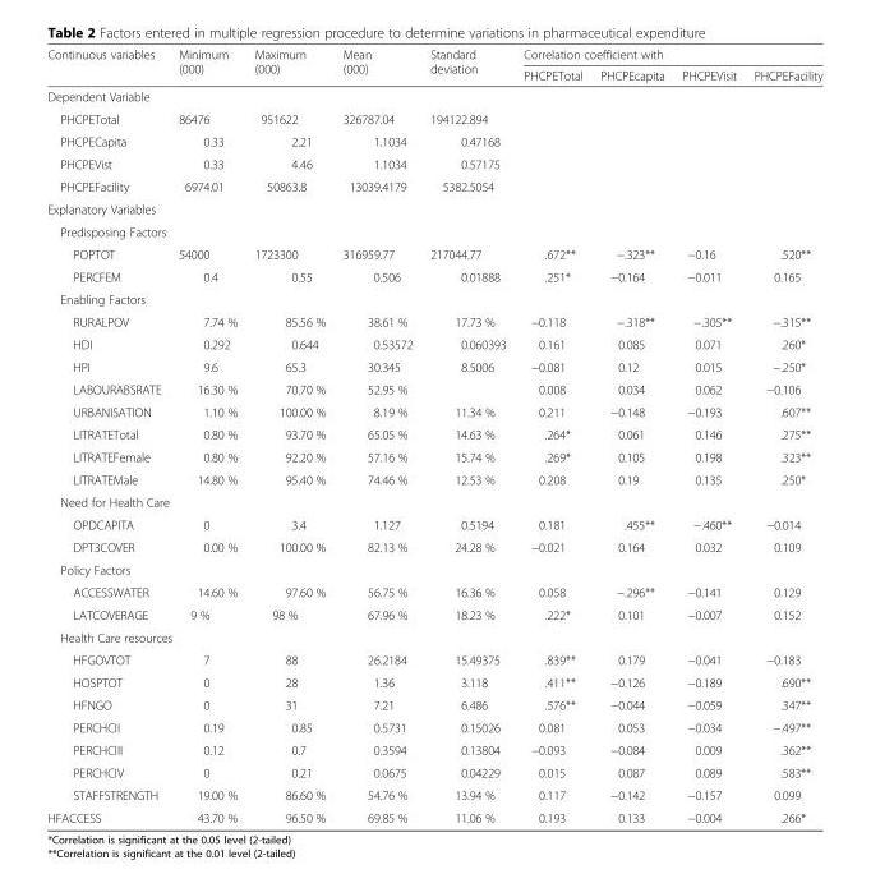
<table><thead><tr><td rowspan="2">Continuous variables</td><td rowspan="2">Minimum (000)</td><td rowspan="2">Maximum (000)</td><td rowspan="2">Mean (000)</td><td rowspan="2">Standard deviation</td><td colspan="4">Correlation coefficient with</td></tr><tr><td>PHCPETotal</td><td>PHCPEcapita</td><td>PHCPEVisit</td><td>PHCPEFacility</td></tr></thead><tbody><tr><td colspan="9">Dependent Variable</td></tr><tr><td>PHCPETotal</td><td>86476</td><td>951622</td><td>326787.04</td><td>194122.894</td><td></td><td></td><td></td><td></td></tr><tr><td>PHCPECapita</td><td>0.33</td><td>2.21</td><td>1.1034</td><td>0.47168</td><td></td><td></td><td></td><td></td></tr><tr><td>PHCPEVist</td><td>0.33</td><td>4.46</td><td>1.1034</td><td>0.57175</td><td></td><td></td><td></td><td></td></tr><tr><td>PHCPEFacility</td><td>6974.01</td><td>50863.8</td><td>13039.4179</td><td>5382.5054</td><td></td><td></td><td></td><td></td></tr><tr><td colspan="9">Explanatory Variables</td></tr><tr><td colspan="9">Predisposing Factors</td></tr><tr><td>POPTOT</td><td>54000</td><td>1723300</td><td>316959.77</td><td>217044.77</td><td>.672**</td><td>−.323**</td><td>−0.16</td><td>.520**</td></tr><tr><td>PERCFEM</td><td>0.4</td><td>0.55</td><td>0.506</td><td>0.01888</td><td>.251*</td><td>−0.164</td><td>−0.011</td><td>0.165</td></tr><tr><td colspan="9">Enabling Factors</td></tr><tr><td>RURALPOV</td><td>7.74 %</td><td>85.56 %</td><td>38.61 %</td><td>17.73 %</td><td>−0.118</td><td>−.318**</td><td>−.305**</td><td>−.315**</td></tr><tr><td>HDI</td><td>0.292</td><td>0.644</td><td>0.53572</td><td>0.060393</td><td>0.161</td><td>0.085</td><td>0.071</td><td>.260*</td></tr><tr><td>HPI</td><td>9.6</td><td>65.3</td><td>30.345</td><td>8.5006</td><td>−0.081</td><td>0.12</td><td>0.015</td><td>−.250*</td></tr><tr><td>LABOURABSRATE</td><td>16.30 %</td><td>70.70 %</td><td>52.95 %</td><td></td><td>0.008</td><td>0.034</td><td>0.062</td><td>−0.106</td></tr><tr><td>URBANISATION</td><td>1.10 %</td><td>100.00 %</td><td>8.19 %</td><td>11.34 %</td><td>0.211</td><td>−0.148</td><td>−0.193</td><td>.607**</td></tr><tr><td>LITRATETotal</td><td>0.80 %</td><td>93.70 %</td><td>65.05 %</td><td>14.63 %</td><td>.264*</td><td>0.061</td><td>0.146</td><td>.275**</td></tr><tr><td>LITRATEFemale</td><td>0.80 %</td><td>92.20 %</td><td>57.16 %</td><td>15.74 %</td><td>.269*</td><td>0.105</td><td>0.198</td><td>.323**</td></tr><tr><td>LITRATEMale</td><td>14.80 %</td><td>95.40 %</td><td>74.46 %</td><td>12.53 %</td><td>0.208</td><td>0.19</td><td>0.135</td><td>.250*</td></tr><tr><td colspan="9">Need for Health Care</td></tr><tr><td>OPDCAPITA</td><td>0</td><td>3.4</td><td>1.127</td><td>0.5194</td><td>0.181</td><td>.455**</td><td>−.460**</td><td>−0.014</td></tr><tr><td>DPT3COVER</td><td>0.00 %</td><td>100.00 %</td><td>82.13 %</td><td>24.28 %</td><td>−0.021</td><td>0.164</td><td>0.032</td><td>0.109</td></tr><tr><td colspan="9">Policy Factors</td></tr><tr><td>ACCESSWATER</td><td>14.60 %</td><td>97.60 %</td><td>56.75 %</td><td>16.36 %</td><td>0.058</td><td>−.296**</td><td>−0.141</td><td>0.129</td></tr><tr><td>LATCOVERAGE</td><td>9 %</td><td>98 %</td><td>67.96 %</td><td>18.23 %</td><td>.222*</td><td>0.101</td><td>−0.007</td><td>0.152</td></tr><tr><td colspan="9">Health Care resources</td></tr><tr><td>HFGOVTOT</td><td>7</td><td>88</td><td>26.2184</td><td>15.49375</td><td>.839**</td><td>0.179</td><td>−0.041</td><td>−0.183</td></tr><tr><td>HOSPTOT</td><td>0</td><td>28</td><td>1.36</td><td>3.118</td><td>.411**</td><td>−0.126</td><td>−0.189</td><td>.690**</td></tr><tr><td>HFNGO</td><td>0</td><td>31</td><td>7.21</td><td>6.486</td><td>.576**</td><td>−0.044</td><td>−0.059</td><td>.347**</td></tr><tr><td>PERCHCII</td><td>0.19</td><td>0.85</td><td>0.5731</td><td>0.15026</td><td>0.081</td><td>0.053</td><td>−0.034</td><td>−.497**</td></tr><tr><td>PERCHCIII</td><td>0.12</td><td>0.7</td><td>0.3594</td><td>0.13804</td><td>−0.093</td><td>−0.084</td><td>0.009</td><td>.362**</td></tr><tr><td>PERCHCIV</td><td>0</td><td>0.21</td><td>0.0675</td><td>0.04229</td><td>0.015</td><td>0.087</td><td>0.089</td><td>.583**</td></tr><tr><td>STAFFSTRENGTH</td><td>19.00 %</td><td>86.60 %</td><td>54.76 %</td><td>13.94 %</td><td>0.117</td><td>−0.142</td><td>−0.157</td><td>0.099</td></tr><tr><td>HFACCESS</td><td>43.70 %</td><td>96.50 %</td><td>69.85 %</td><td>11.06 %</td><td>0.193</td><td>0.133</td><td>−0.004</td><td>.266*</td></tr></tbody></table>